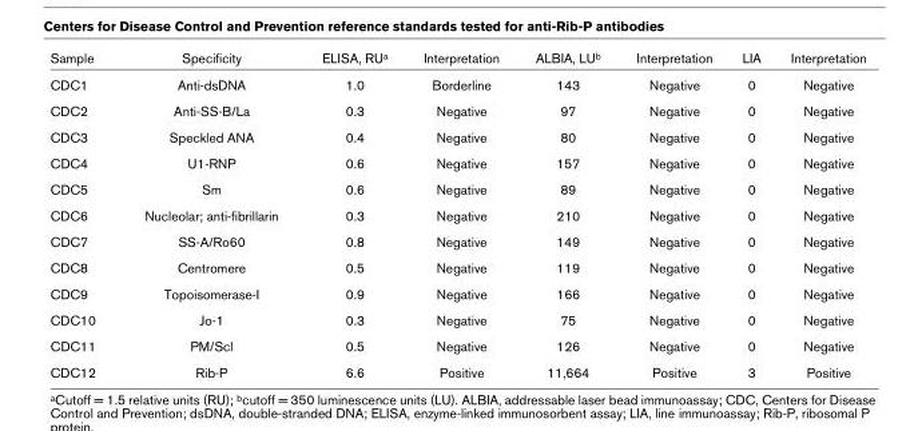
<table><thead><tr><td>Sample</td><td>Specificity</td><td>ELISA, RU<sup>a</sup></td><td>Interpretation</td><td>ALBIA, LU<sup>b</sup></td><td>Interpretation</td><td>LIA</td><td>Interpretation</td></tr></thead><tbody><tr><td>CDC1</td><td>Anti-dsDNA</td><td>1.0</td><td>Borderline</td><td>143</td><td>Negative</td><td>0</td><td>Negative</td></tr><tr><td>CDC2</td><td>Anti-SS-B/La</td><td>0.3</td><td>Negative</td><td>97</td><td>Negative</td><td>0</td><td>Negative</td></tr><tr><td>CDC3</td><td>Speckled ANA</td><td>0.4</td><td>Negative</td><td>80</td><td>Negative</td><td>0</td><td>Negative</td></tr><tr><td>CDC4</td><td>U1-RNP</td><td>0.6</td><td>Negative</td><td>157</td><td>Negative</td><td>0</td><td>Negative</td></tr><tr><td>CDC5</td><td>Sm</td><td>0.6</td><td>Negative</td><td>89</td><td>Negative</td><td>0</td><td>Negative</td></tr><tr><td>CDC6</td><td>Nucleolar; anti-fibrillarin</td><td>0.3</td><td>Negative</td><td>210</td><td>Negative</td><td>0</td><td>Negative</td></tr><tr><td>CDC7</td><td>SS-A/Ro60</td><td>0.8</td><td>Negative</td><td>149</td><td>Negative</td><td>0</td><td>Negative</td></tr><tr><td>CDC8</td><td>Centromere</td><td>0.5</td><td>Negative</td><td>119</td><td>Negative</td><td>0</td><td>Negative</td></tr><tr><td>CDC9</td><td>Topoisomerase-I</td><td>0.9</td><td>Negative</td><td>166</td><td>Negative</td><td>0</td><td>Negative</td></tr><tr><td>CDC10</td><td>Jo-1</td><td>0.3</td><td>Negative</td><td>75</td><td>Negative</td><td>0</td><td>Negative</td></tr><tr><td>CDC11</td><td>PM/Scl</td><td>0.5</td><td>Negative</td><td>126</td><td>Negative</td><td>0</td><td>Negative</td></tr><tr><td>CDC12</td><td>Rib-P</td><td>6.6</td><td>Positive</td><td>11,664</td><td>Positive</td><td>3</td><td>Positive</td></tr></tbody></table>